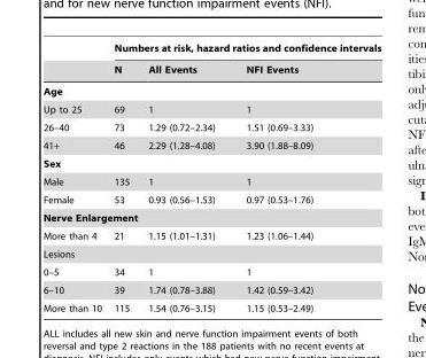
<table><thead><tr><td rowspan="2"></td><td colspan="3">Numbers at risk, hazard ratios and confidence intervals</td></tr><tr><td>N</td><td>All Events</td><td>NFI Events</td></tr></thead><tbody><tr><td colspan="4">Age</td></tr><tr><td>Up to 25</td><td>69</td><td>1</td><td>1</td></tr><tr><td>26–40</td><td>73</td><td>1.29 (0.72–2.34)</td><td>1.51 (0.69–3.33)</td></tr><tr><td>41+</td><td>46</td><td>2.29 (1.28–4.08)</td><td>3.90 (1.88–8.09)</td></tr><tr><td colspan="4">Sex</td></tr><tr><td>Male</td><td>135</td><td>1</td><td>1</td></tr><tr><td>Female</td><td>53</td><td>0.93 (0.56–1.53)</td><td>0.97 (0.53–1.76)</td></tr><tr><td colspan="4">Nerve Enlargement</td></tr><tr><td>More than 4</td><td>21</td><td>1.15 (1.01–1.31)</td><td>1.23 (1.06–1.44)</td></tr><tr><td colspan="4">Lesions</td></tr><tr><td>0–5</td><td>34</td><td>1</td><td>1</td></tr><tr><td>6–10</td><td>39</td><td>1.74 (0.78–3.88)</td><td>1.42 (0.59–3.42)</td></tr><tr><td>More than 10</td><td>115</td><td>1.54 (0.76–3.15)</td><td>1.15 (0.53–2.49)</td></tr></tbody></table>